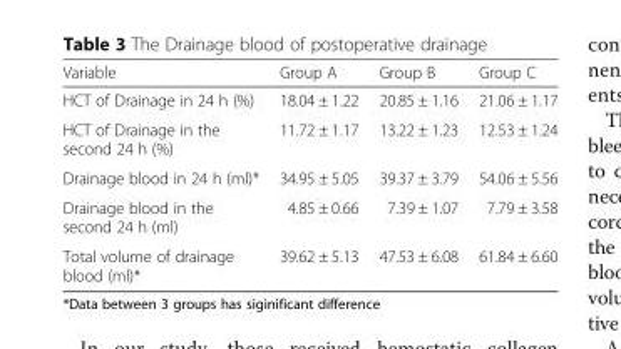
<table><thead><tr><td>Variable</td><td>Group A</td><td>Group B</td><td>Group C</td></tr></thead><tbody><tr><td>HCT of Drainage in 24 h (%)</td><td>18.04 ± 1.22</td><td>20.85 ± 1.16</td><td>21.06 ± 1.17</td></tr><tr><td>HCT of Drainage in the second 24 h (%)</td><td>11.72 ± 1.17</td><td>13.22 ± 1.23</td><td>12.53 ± 1.24</td></tr><tr><td>Drainage blood in 24 h (ml)*</td><td>34.95 ± 5.05</td><td>39.37 ± 3.79</td><td>54.06 ± 5.56</td></tr><tr><td>Drainage blood in the second 24 h (ml)</td><td>4.85 ± 0.66</td><td>7.39 ± 1.07</td><td>7.79 ± 3.58</td></tr><tr><td>Total volume of drainage blood (ml)*</td><td>39.62 ± 5.13</td><td>47.53 ± 6.08</td><td>61.84 ± 6.60</td></tr></tbody></table>